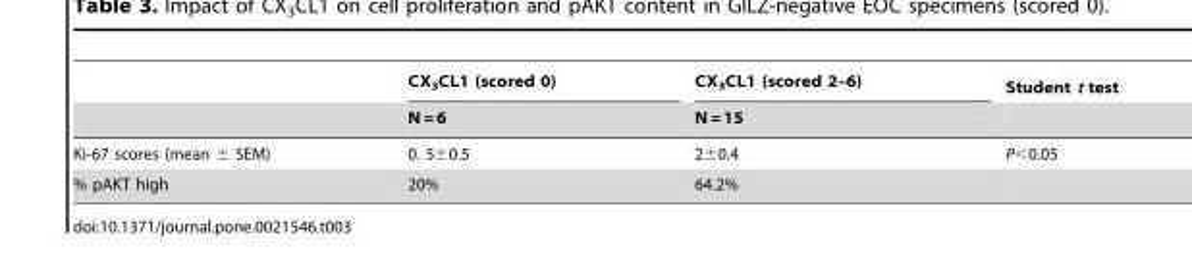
<table><thead><tr><td rowspan="2"></td><td rowspan="2">CX<sub>3</sub>CL1 (scored 0) N = 6</td><td rowspan="2">CX<sub>3</sub>CL1 (scored 2–6) N = 15</td><td rowspan="2">Student t test</td></tr><tr></tr></thead><tbody><tr><td>Ki-67 scores (mean ± SEM)</td><td>0. 5±0.5</td><td>2±0.4</td><td>P&lt;0.05</td></tr><tr><td>% pAKT high</td><td>20%</td><td>64.2%</td><td></td></tr></tbody></table>